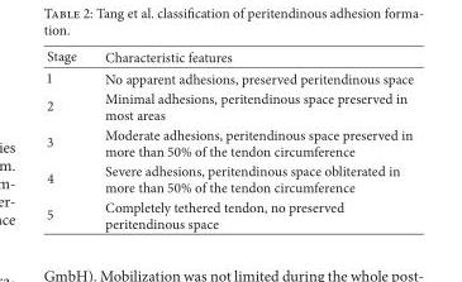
<table><thead><tr><td>Stage</td><td>Characteristic features</td></tr></thead><tbody><tr><td>1</td><td>No apparent adhesions, preserved peritendinous space</td></tr><tr><td>2</td><td>Minimal adhesions, peritendinous space preserved in most areas</td></tr><tr><td>3</td><td>Moderate adhesions, peritendinous space preserved in more than 50% of the tendon circumference</td></tr><tr><td>4</td><td>Severe adhesions, peritendinous space obliterated in more than 50% of the tendon circumference</td></tr><tr><td>5</td><td>Completely tethered tendon, no preserved peritendinous space</td></tr></tbody></table>